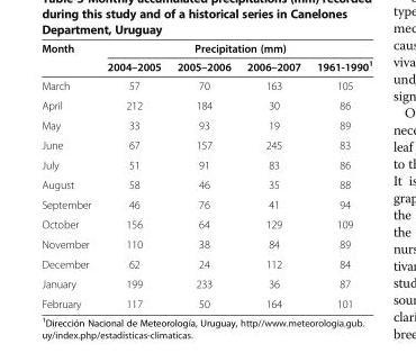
<table><thead><tr><td rowspan="2">Month</td><td colspan="4">Precipitation (mm)</td></tr><tr><td>2004–2005</td><td>2005–2006</td><td>2006–2007</td><td>1961-1990<sup>1</sup></td></tr></thead><tbody><tr><td>March</td><td>57</td><td>70</td><td>163</td><td>105</td></tr><tr><td>April</td><td>212</td><td>184</td><td>30</td><td>86</td></tr><tr><td>May</td><td>33</td><td>93</td><td>19</td><td>89</td></tr><tr><td>June</td><td>67</td><td>157</td><td>245</td><td>83</td></tr><tr><td>July</td><td>51</td><td>91</td><td>83</td><td>86</td></tr><tr><td>August</td><td>58</td><td>46</td><td>35</td><td>88</td></tr><tr><td>September</td><td>46</td><td>76</td><td>41</td><td>94</td></tr><tr><td>October</td><td>156</td><td>64</td><td>129</td><td>109</td></tr><tr><td>November</td><td>110</td><td>38</td><td>84</td><td>89</td></tr><tr><td>December</td><td>62</td><td>24</td><td>112</td><td>84</td></tr><tr><td>January</td><td>199</td><td>233</td><td>36</td><td>87</td></tr><tr><td>February</td><td>117</td><td>50</td><td>164</td><td>101</td></tr></tbody></table>